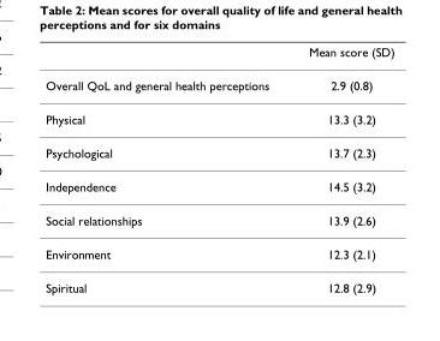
<table><thead><tr><td></td><td>Mean score (SD)</td></tr></thead><tbody><tr><td>Overall QoL and general health perceptions</td><td>2.9 (0.8)</td></tr><tr><td>Physical</td><td>13.3 (3.2)</td></tr><tr><td>Psychological</td><td>13.7 (2.3)</td></tr><tr><td>Independence</td><td>14.5 (3.2)</td></tr><tr><td>Social relationships</td><td>13.9 (2.6)</td></tr><tr><td>Environment</td><td>12.3 (2.1)</td></tr><tr><td>Spiritual</td><td>12.8 (2.9)</td></tr></tbody></table>